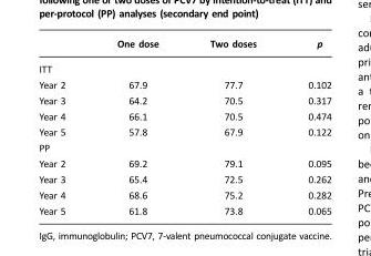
<table><thead><tr><td></td><td>One dose</td><td>Two doses</td><td>p</td></tr></thead><tbody><tr><td colspan="4">ITT</td></tr><tr><td>Year 2</td><td>67.9</td><td>77.7</td><td>0.102</td></tr><tr><td>Year 3</td><td>64.2</td><td>70.5</td><td>0.317</td></tr><tr><td>Year 4</td><td>66.1</td><td>70.5</td><td>0.474</td></tr><tr><td>Year 5</td><td>57.8</td><td>67.9</td><td>0.122</td></tr><tr><td colspan="4">PP</td></tr><tr><td>Year 2</td><td>69.2</td><td>79.1</td><td>0.095</td></tr><tr><td>Year 3</td><td>65.4</td><td>72.5</td><td>0.262</td></tr><tr><td>Year 4</td><td>68.6</td><td>75.2</td><td>0.282</td></tr><tr><td>Year 5</td><td>61.8</td><td>73.8</td><td>0.065</td></tr></tbody></table>